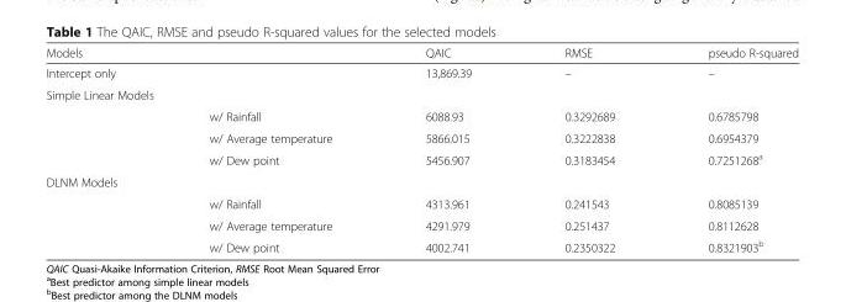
<table><thead><tr><td>Models</td><td></td><td>QAIC</td><td>RMSE</td><td>pseudo R-squared</td></tr></thead><tbody><tr><td>Intercept only</td><td></td><td>13,869.39</td><td>–</td><td>–</td></tr><tr><td colspan="5">Simple Linear Models</td></tr><tr><td rowspan="3"></td><td>w/ Rainfall</td><td>6088.93</td><td>0.3292689</td><td>0.6785798</td></tr><tr><td>w/ Average temperature</td><td>5866.015</td><td>0.3222838</td><td>0.6954379</td></tr><tr><td>w/ Dew point</td><td>5456.907</td><td>0.3183454</td><td>0.7251268<sup>a</sup></td></tr><tr><td colspan="5">DLNM Models</td></tr><tr><td rowspan="3"></td><td>w/ Rainfall</td><td>4313.961</td><td>0.241543</td><td>0.8085139</td></tr><tr><td>w/ Average temperature</td><td>4291.979</td><td>0.251437</td><td>0.8112628</td></tr><tr><td>w/ Dew point</td><td>4002.741</td><td>0.2350322</td><td>0.8321903<sup>b</sup></td></tr></tbody></table>